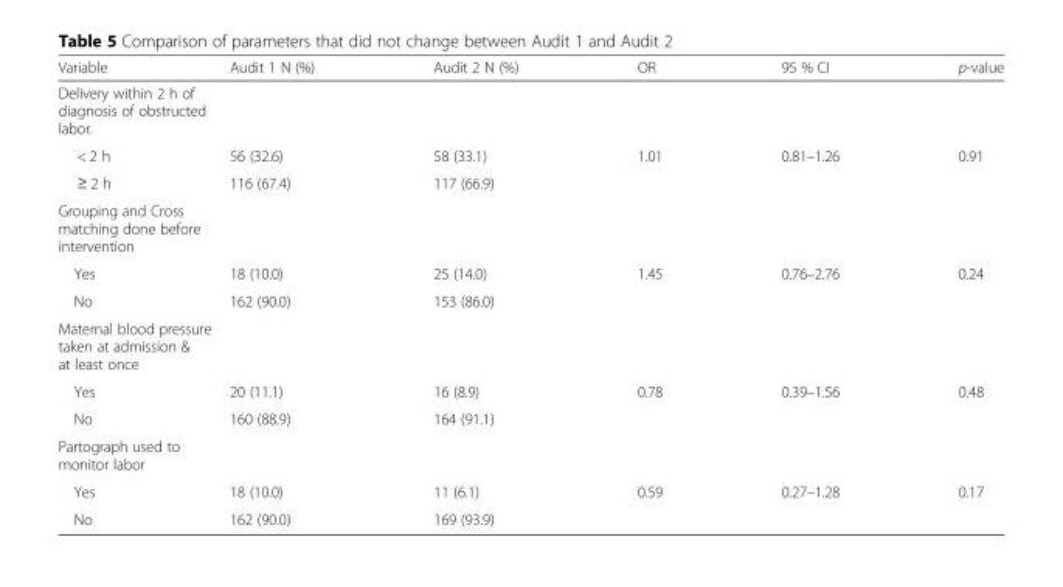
<table><thead><tr><td>Variable</td><td>Audit 1 N (%)</td><td>Audit 2 N (%)</td><td>OR</td><td>95 % CI</td><td>p-value</td></tr></thead><tbody><tr><td colspan="6">Delivery within 2 h of diagnosis of obstructed labor.</td></tr><tr><td>&lt; 2 h</td><td>56 (32.6)</td><td>58 (33.1)</td><td>1.01</td><td>0.81–1.26</td><td>0.91</td></tr><tr><td>≥ 2 h</td><td>116 (67.4)</td><td>117 (66.9)</td><td></td><td></td><td></td></tr><tr><td colspan="6">Grouping and Cross matching done before intervention</td></tr><tr><td>Yes</td><td>18 (10.0)</td><td>25 (14.0)</td><td>1.45</td><td>0.76–2.76</td><td>0.24</td></tr><tr><td>No</td><td>162 (90.0)</td><td>153 (86.0)</td><td></td><td></td><td></td></tr><tr><td colspan="6">Maternal blood pressure taken at admission &amp; at least once</td></tr><tr><td>Yes</td><td>20 (11.1)</td><td>16 (8.9)</td><td>0.78</td><td>0.39–1.56</td><td>0.48</td></tr><tr><td>No</td><td>160 (88.9)</td><td>164 (91.1)</td><td></td><td></td><td></td></tr><tr><td colspan="6">Partograph used to monitor labor</td></tr><tr><td>Yes</td><td>18 (10.0)</td><td>11 (6.1)</td><td>0.59</td><td>0.27–1.28</td><td>0.17</td></tr><tr><td>No</td><td>162 (90.0)</td><td>169 (93.9)</td><td></td><td></td><td></td></tr></tbody></table>